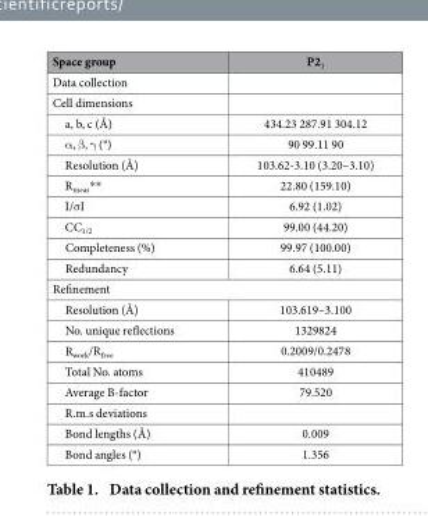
<table><thead><tr><td>Space group</td><td>P2<sub>1</sub></td></tr></thead><tbody><tr><td colspan="2">Data collection</td></tr><tr><td colspan="2">Cell dimensions</td></tr><tr><td>a, b, c (Å)</td><td>434.23 287.91 304.12</td></tr><tr><td>α , β , γ (°)</td><td>90 99.11 90</td></tr><tr><td>Resolution (Å)</td><td>103.62-3.10 (3.20–3.10)</td></tr><tr><td>R<sub>meas</sub>* *</td><td>22.80 (159.10)</td></tr><tr><td>I/σ I</td><td>6.92 (1.02)</td></tr><tr><td>CC<sub>1/2</sub></td><td>99.00 (44.20)</td></tr><tr><td>Completeness (%)</td><td>99.97 (100.00)</td></tr><tr><td>Redundancy</td><td>6.64 (5.11)</td></tr><tr><td colspan="2">Refinement</td></tr><tr><td>Resolution (Å)</td><td>103.619–3.100</td></tr><tr><td>No. unique reflections</td><td>1329824</td></tr><tr><td>R<sub>work</sub>/R<sub>free</sub></td><td>0.2009/0.2478</td></tr><tr><td>Total No. atoms</td><td>410489</td></tr><tr><td>Average B-factor</td><td>79.520</td></tr><tr><td colspan="2">R.m.s deviations</td></tr><tr><td>Bond lengths (Å)</td><td>0.009</td></tr><tr><td>Bond angles (°)</td><td>1.356</td></tr></tbody></table>